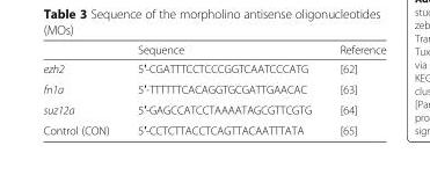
<table><thead><tr><td></td><td>Sequence</td><td>Reference</td></tr></thead><tbody><tr><td>ezh2</td><td>5′-CGATTTCCTCCCGGTCAATCCCATG</td><td>[62]</td></tr><tr><td>fn1a</td><td>5′-TTTTTTCACAGGTGCGATTGAACAC</td><td>[63]</td></tr><tr><td>suz12a</td><td>5′-GAGCCATCCTAAAATAGCGTTCGTG</td><td>[64]</td></tr><tr><td>Control (CON)</td><td>5′-CCTCTTACCTCAGTTACAATTTATA</td><td>[65]</td></tr></tbody></table>